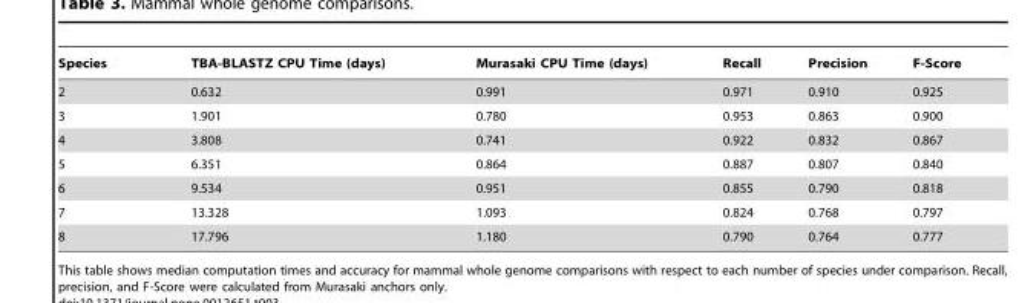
<table><thead><tr><td>Species</td><td>TBA-BLASTZ CPU Time (days)</td><td>Murasaki CPU Time (days)</td><td>Recall</td><td>Precision</td><td>F-Score</td></tr></thead><tbody><tr><td>2</td><td>0.632</td><td>0.991</td><td>0.971</td><td>0.910</td><td>0.925</td></tr><tr><td>3</td><td>1.901</td><td>0.780</td><td>0.953</td><td>0.863</td><td>0.900</td></tr><tr><td>4</td><td>3.808</td><td>0.741</td><td>0.922</td><td>0.832</td><td>0.867</td></tr><tr><td>5</td><td>6.351</td><td>0.864</td><td>0.887</td><td>0.807</td><td>0.840</td></tr><tr><td>6</td><td>9.534</td><td>0.951</td><td>0.855</td><td>0.790</td><td>0.818</td></tr><tr><td>7</td><td>13.328</td><td>1.093</td><td>0.824</td><td>0.768</td><td>0.797</td></tr><tr><td>8</td><td>17.796</td><td>1.180</td><td>0.790</td><td>0.764</td><td>0.777</td></tr></tbody></table>